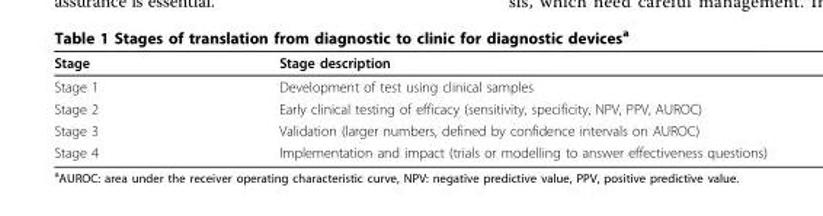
<table><thead><tr><td>Stage</td><td>Stage description</td></tr></thead><tbody><tr><td>Stage 1</td><td>Development of test using clinical samples</td></tr><tr><td>Stage 2</td><td>Early clinical testing of efficacy (sensitivity, specificity, NPV, PPV, AUROC)</td></tr><tr><td>Stage 3</td><td>Validation (larger numbers, defined by confidence intervals on AUROC)</td></tr><tr><td>Stage 4</td><td>Implementation and impact (trials or modelling to answer effectiveness questions)</td></tr></tbody></table>